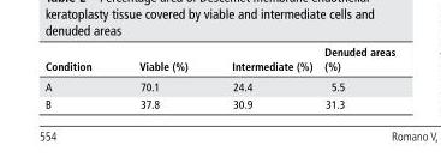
<table><thead><tr><td>Condition</td><td>Viable (%)</td><td>Intermediate (%)</td><td>denuded areas (%)</td></tr></thead><tbody><tr><td>A</td><td>70.1</td><td>24.4</td><td>5.5</td></tr><tr><td>B</td><td>37.8</td><td>30.9</td><td>31.3</td></tr></tbody></table>